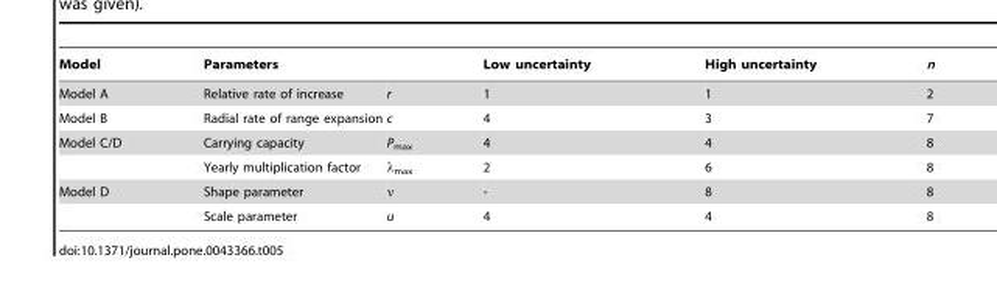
<table><thead><tr><td>Model</td><td>Parameters</td><td></td><td>Low uncertainty</td><td>High uncertainty</td><td>n</td></tr></thead><tbody><tr><td>Model A</td><td>Relative rate of increase</td><td>r</td><td>1</td><td>1</td><td>2</td></tr><tr><td>Model B</td><td>Radial rate of range expansion</td><td>c</td><td>4</td><td>3</td><td>7</td></tr><tr><td rowspan="2">Model C/D</td><td>Carrying capacity</td><td>P<sub>max</sub></td><td>4</td><td>4</td><td>8</td></tr><tr><td>Yearly multiplication factor</td><td>λ<sub>max</sub></td><td>2</td><td>6</td><td>8</td></tr><tr><td rowspan="2">Model D</td><td>Shape parameter</td><td>ν</td><td>-</td><td>8</td><td>8</td></tr><tr><td>Scale parameter</td><td>u</td><td>4</td><td>4</td><td>8</td></tr></tbody></table>